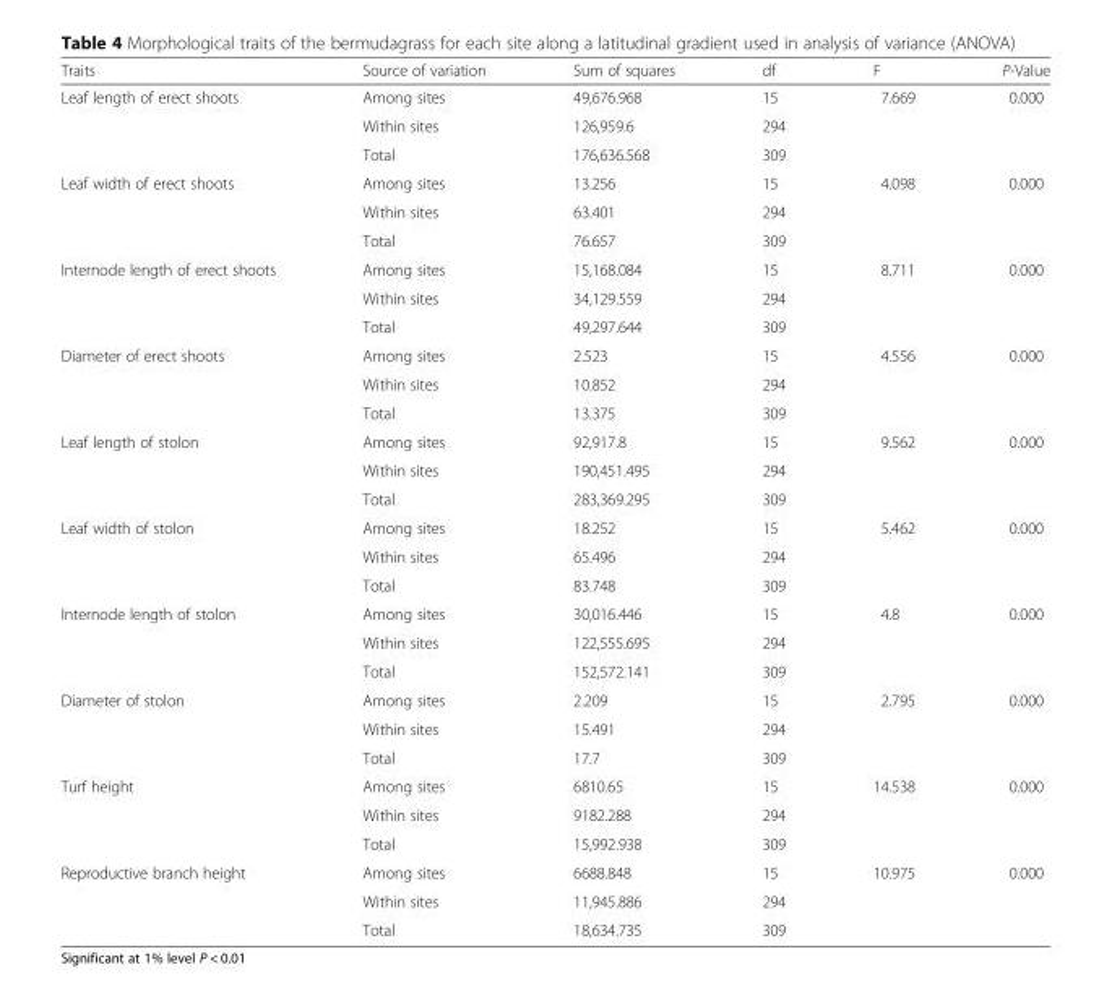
<table><thead><tr><td>Traits</td><td>Source of variation</td><td>Sum of squares</td><td>df</td><td>F</td><td>P-Value</td></tr></thead><tbody><tr><td rowspan="3">Leaf length of erect shoots</td><td>Among sites</td><td>49,676.968</td><td>15</td><td>7.669</td><td>0.000</td></tr><tr><td>Within sites</td><td>126,959.6</td><td>294</td><td></td><td></td></tr><tr><td>Total</td><td>176,636.568</td><td>309</td><td></td><td></td></tr><tr><td rowspan="3">Leaf width of erect shoots</td><td>Among sites</td><td>13.256</td><td>15</td><td>4.098</td><td>0.000</td></tr><tr><td>Within sites</td><td>63.401</td><td>294</td><td></td><td></td></tr><tr><td>Total</td><td>76.657</td><td>309</td><td></td><td></td></tr><tr><td rowspan="3">Internode length of erect shoots</td><td>Among sites</td><td>15,168.084</td><td>15</td><td>8.711</td><td>0.000</td></tr><tr><td>Within sites</td><td>34,129.559</td><td>294</td><td></td><td></td></tr><tr><td>Total</td><td>49,297.644</td><td>309</td><td></td><td></td></tr><tr><td rowspan="3">Diameter of erect shoots</td><td>Among sites</td><td>2.523</td><td>15</td><td>4.556</td><td>0.000</td></tr><tr><td>Within sites</td><td>10.852</td><td>294</td><td></td><td></td></tr><tr><td>Total</td><td>13.375</td><td>309</td><td></td><td></td></tr><tr><td rowspan="3">Leaf length of stolon</td><td>Among sites</td><td>92,917.8</td><td>15</td><td>9.562</td><td>0.000</td></tr><tr><td>Within sites</td><td>190,451.495</td><td>294</td><td></td><td></td></tr><tr><td>Total</td><td>283,369.295</td><td>309</td><td></td><td></td></tr><tr><td rowspan="3">Leaf width of stolon</td><td>Among sites</td><td>18.252</td><td>15</td><td>5.462</td><td>0.000</td></tr><tr><td>Within sites</td><td>65.496</td><td>294</td><td></td><td></td></tr><tr><td>Total</td><td>83.748</td><td>309</td><td></td><td></td></tr><tr><td rowspan="3">Internode length of stolon</td><td>Among sites</td><td>30,016.446</td><td>15</td><td>4.8</td><td>0.000</td></tr><tr><td>Within sites</td><td>122,555.695</td><td>294</td><td></td><td></td></tr><tr><td>Total</td><td>152,572.141</td><td>309</td><td></td><td></td></tr><tr><td rowspan="3">Diameter of stolon</td><td>Among sites</td><td>2.209</td><td>15</td><td>2.795</td><td>0.000</td></tr><tr><td>Within sites</td><td>15.491</td><td>294</td><td></td><td></td></tr><tr><td>Total</td><td>17.7</td><td>309</td><td></td><td></td></tr><tr><td rowspan="3">Turf height</td><td>Among sites</td><td>6810.65</td><td>15</td><td>14.538</td><td>0.000</td></tr><tr><td>Within sites</td><td>9182.288</td><td>294</td><td></td><td></td></tr><tr><td>Total</td><td>15,992.938</td><td>309</td><td></td><td></td></tr><tr><td rowspan="3">Reproductive branch height</td><td>Among sites</td><td>6688.848</td><td>15</td><td>10.975</td><td>0.000</td></tr><tr><td>Within sites</td><td>11,945.886</td><td>294</td><td></td><td></td></tr><tr><td>Total</td><td>18,634.735</td><td>309</td><td></td><td></td></tr></tbody></table>